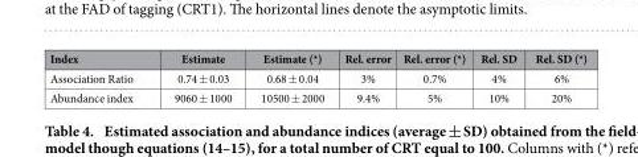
<table><thead><tr><td>Index</td><td>Estimate</td><td>Estimate (*)</td><td>Rel. error</td><td>Rel. error (*)</td><td>Rel. SD</td><td>Rel. SD (*)</td></tr></thead><tbody><tr><td>Association Ratio</td><td>0.74 ± 0.03</td><td>0.68 ± 0.04</td><td>3%</td><td>0.7%</td><td>4%</td><td>6%</td></tr><tr><td>Abundance index</td><td>9060 ± 1000</td><td>10500 ± 2000</td><td>9.4%</td><td>5%</td><td>10%</td><td>20%</td></tr></tbody></table>